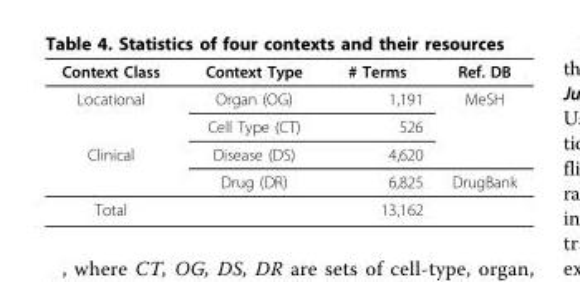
<table><thead><tr><td>Context Class</td><td>Context Type</td><td># Terms</td><td>Ref. DB</td></tr></thead><tbody><tr><td rowspan="2">Locational</td><td>Organ (OG)</td><td>1,191</td><td>MeSH</td></tr><tr><td>Cell Type (CT)</td><td>526</td><td></td></tr><tr><td rowspan="2">Clinical</td><td>Disease (DS)</td><td>4,620</td><td></td></tr><tr><td>Drug (DR)</td><td>6,825</td><td>DrugBank</td></tr><tr><td>Total</td><td></td><td>13,162</td><td></td></tr></tbody></table>